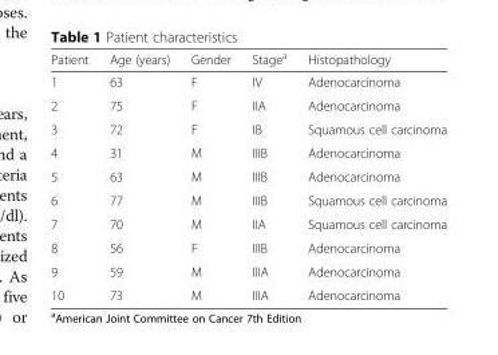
<table><thead><tr><td>Patient</td><td>Age (years)</td><td>Gender</td><td>Stage<sup>a</sup></td><td>Histopathology</td></tr></thead><tbody><tr><td>1</td><td>63</td><td>F</td><td>IV</td><td>Adenocarcinoma</td></tr><tr><td>2</td><td>75</td><td>F</td><td>IIA</td><td>Adenocarcinoma</td></tr><tr><td>3</td><td>72</td><td>F</td><td>IB</td><td>Squamous cell carcinoma</td></tr><tr><td>4</td><td>31</td><td>M</td><td>IIIB</td><td>Adenocarcinoma</td></tr><tr><td>5</td><td>63</td><td>M</td><td>IIIB</td><td>Adenocarcinoma</td></tr><tr><td>6</td><td>77</td><td>M</td><td>IIIB</td><td>Squamous cell carcinoma</td></tr><tr><td>7</td><td>70</td><td>M</td><td>IIA</td><td>Squamous cell carcinoma</td></tr><tr><td>8</td><td>56</td><td>F</td><td>IIIB</td><td>Adenocarcinoma</td></tr><tr><td>9</td><td>59</td><td>M</td><td>IIIA</td><td>Adenocarcinoma</td></tr><tr><td>10</td><td>73</td><td>M</td><td>IIIA</td><td>Adenocarcinoma</td></tr></tbody></table>